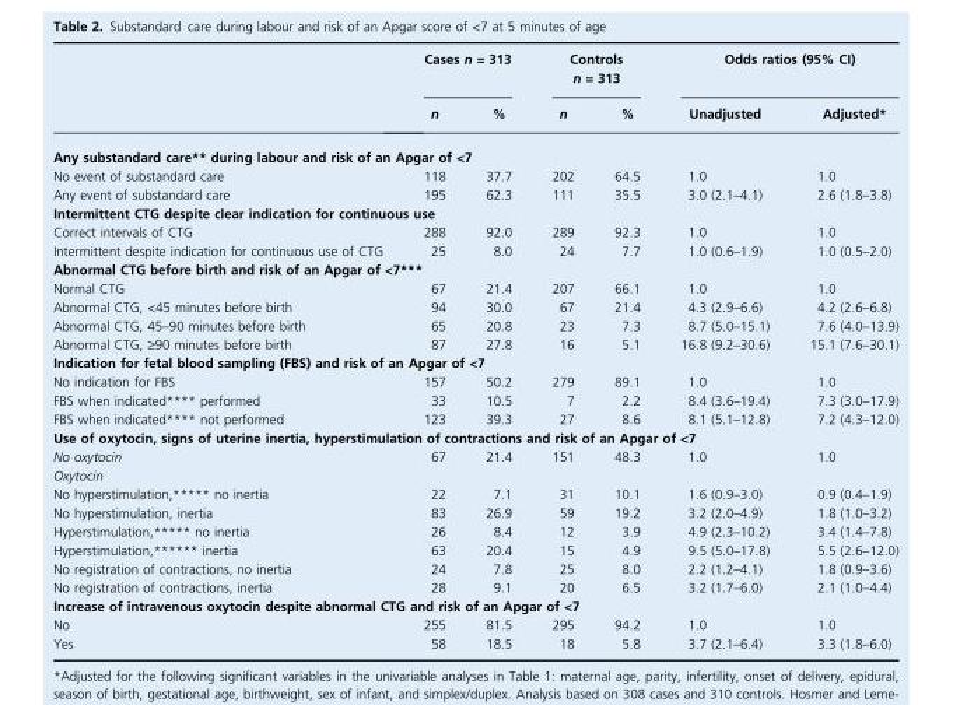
<table><thead><tr><td rowspan="2"></td><td colspan="2">Cases n = 313</td><td colspan="2">Controls n = 313</td><td colspan="2">Odds ratios (95% CI)</td></tr><tr><td>n</td><td>%</td><td>n</td><td>%</td><td>Unadjusted</td><td>Adjusted*</td></tr></thead><tbody><tr><td colspan="7">Any substandard care** during labour and risk of an Apgar of &lt;7</td></tr><tr><td>No event of substandard care</td><td>118</td><td>37.7</td><td>202</td><td>64.5</td><td>1.0</td><td>1.0</td></tr><tr><td>Any event of substandard care</td><td>195</td><td>62.3</td><td>111</td><td>35.5</td><td>3.0 (2.1–4.1)</td><td>2.6 (1.8–3.8)</td></tr><tr><td colspan="7">Intermittent CTG despite clear indication for continuous use</td></tr><tr><td>Correct intervals of CTG</td><td>288</td><td>92.0</td><td>289</td><td>92.3</td><td>1.0</td><td>1.0</td></tr><tr><td>Intermittent despite indication for continuous use of CTG</td><td>25</td><td>8.0</td><td>24</td><td>7.7</td><td>1.0 (0.6–1.9)</td><td>1.0 (0.5–2.0)</td></tr><tr><td colspan="7">Abnormal CTG before birth and risk of an Apgar of &lt;7***</td></tr><tr><td>Normal CTG</td><td>67</td><td>21.4</td><td>207</td><td>66.1</td><td>1.0</td><td>1.0</td></tr><tr><td>Abnormal CTG, &lt;45 minutes before birth</td><td>94</td><td>30.0</td><td>67</td><td>21.4</td><td>4.3 (2.9–6.6)</td><td>4.2 (2.6–6.8)</td></tr><tr><td>Abnormal CTG, 45–90 minutes before birth</td><td>65</td><td>20.8</td><td>23</td><td>7.3</td><td>8.7 (5.0–15.1)</td><td>7.6 (4.0–13.9)</td></tr><tr><td>Abnormal CTG, ‡90 minutes before birth</td><td>87</td><td>27.8</td><td>16</td><td>5.1</td><td>16.8 (9.2–30.6)</td><td>15.1 (7.6–30.1)</td></tr><tr><td colspan="7">Indication for fetal blood sampling (FBS) and risk of an Apgar of &lt;7</td></tr><tr><td>No indication for FBS</td><td>157</td><td>50.2</td><td>279</td><td>89.1</td><td>1.0</td><td>1.0</td></tr><tr><td>FBS when indicated**** performed</td><td>33</td><td>10.5</td><td>7</td><td>2.2</td><td>8.4 (3.6–19.4)</td><td>7.3 (3.0–17.9)</td></tr><tr><td>FBS when indicated**** not performed</td><td>123</td><td>39.3</td><td>27</td><td>8.6</td><td>8.1 (5.1–12.8)</td><td>7.2 (4.3–12.0)</td></tr><tr><td colspan="7">Use of oxytocin, signs of uterine inertia, hyperstimulation of contractions and risk of an Apgar of &lt;7</td></tr><tr><td>No oxytocin</td><td>67</td><td>21.4</td><td>151</td><td>48.3</td><td>1.0</td><td>1.0</td></tr><tr><td colspan="7">Oxytocin</td></tr><tr><td>No hyperstimulation,***** no inertia</td><td>22</td><td>7.1</td><td>31</td><td>10.1</td><td>1.6 (0.9–3.0)</td><td>0.9 (0.4–1.9)</td></tr><tr><td>No hyperstimulation, inertia</td><td>83</td><td>26.9</td><td>59</td><td>19.2</td><td>3.2 (2.0–4.9)</td><td>1.8 (1.0–3.2)</td></tr><tr><td>Hyperstimulation,***** no inertia</td><td>26</td><td>8.4</td><td>12</td><td>3.9</td><td>4.9 (2.3–10.2)</td><td>3.4 (1.4–7.8)</td></tr><tr><td>Hyperstimulation,****** inertia</td><td>63</td><td>20.4</td><td>15</td><td>4.9</td><td>9.5 (5.0–17.8)</td><td>5.5 (2.6–12.0)</td></tr><tr><td>No registration of contractions, no inertia</td><td>24</td><td>7.8</td><td>25</td><td>8.0</td><td>2.2 (1.2–4.1)</td><td>1.8 (0.9–3.6)</td></tr><tr><td>No registration of contractions, inertia</td><td>28</td><td>9.1</td><td>20</td><td>6.5</td><td>3.2 (1.7–6.0)</td><td>2.1 (1.0–4.4)</td></tr><tr><td colspan="7">Increase of intravenous oxytocin despite abnormal CTG and risk of an Apgar of &lt;7</td></tr><tr><td>No</td><td>255</td><td>81.5</td><td>295</td><td>94.2</td><td>1.0</td><td>1.0</td></tr><tr><td>Yes</td><td>58</td><td>18.5</td><td>18</td><td>5.8</td><td>3.7 (2.1–6.4)</td><td>3.3 (1.8–6.0)</td></tr></tbody></table>